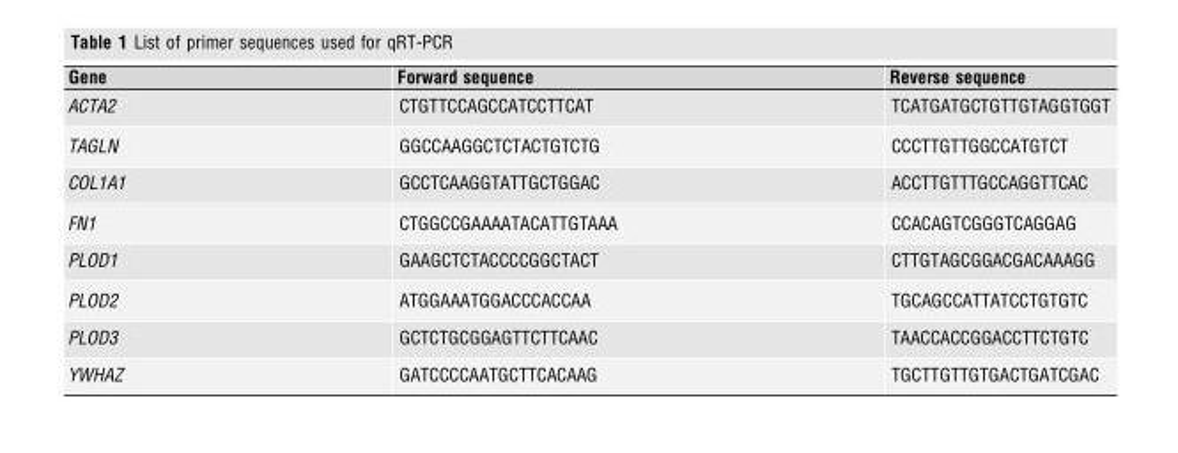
<table><thead><tr><td>Gene</td><td>Forward sequence</td><td>Reverse sequence</td></tr></thead><tbody><tr><td>ACTA2</td><td>CTGTTCCAGCCATCCTTCAT</td><td>TCATGATGCTGTTGTAGGTGGT</td></tr><tr><td>TAGLN</td><td>GGCCAAGGCTCTACTGTCTG</td><td>CCCTTGTTGGCCATGTCT</td></tr><tr><td>COL1A1</td><td>GCCTCAAGGTATTGCTGGAC</td><td>ACCTTGTTTGCCAGGTTCAC</td></tr><tr><td>FN1</td><td>CTGGCCGAAAATACATTGTAAA</td><td>CCACAGTCGGGTCAGGAG</td></tr><tr><td>PLOD1</td><td>GAAGCTCTACCCCGGCTACT</td><td>CTTGTAGCGGACGACAAAGG</td></tr><tr><td>PLOD2</td><td>ATGGAAATGGACCCACCAA</td><td>TGCAGCCATTATCCTGTGTC</td></tr><tr><td>PLOD3</td><td>GCTCTGCGGAGTTCTTCAAC</td><td>TAACCACCGGACCTTCTGTC</td></tr><tr><td>YWHAZ</td><td>GATCCCCAATGCTTCACAAG</td><td>TGCTTGTTGTGACTGATCGAC</td></tr></tbody></table>